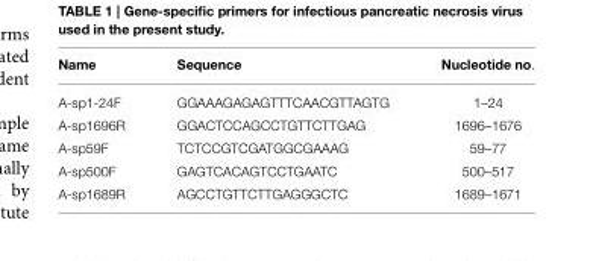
<table><thead><tr><td>Name</td><td>Sequence</td><td>Nucleotide no.</td></tr></thead><tbody><tr><td>A-sp1-24F</td><td>GGAAAGAGAGTTTCAACGTTAGTG</td><td>1–24</td></tr><tr><td>A-sp1696R</td><td>GGACTCCAGCCTGTTCTTGAG</td><td>1696–1676</td></tr><tr><td>A-sp59F</td><td>TCTCCGTCGATGGCGAAAG</td><td>59–77</td></tr><tr><td>A-sp500F</td><td>GAGTCACAGTCCTGAATC</td><td>500–517</td></tr><tr><td>A-sp1689R</td><td>AGCCTGTTCTTGAGGGCTC</td><td>1689–1671</td></tr></tbody></table>